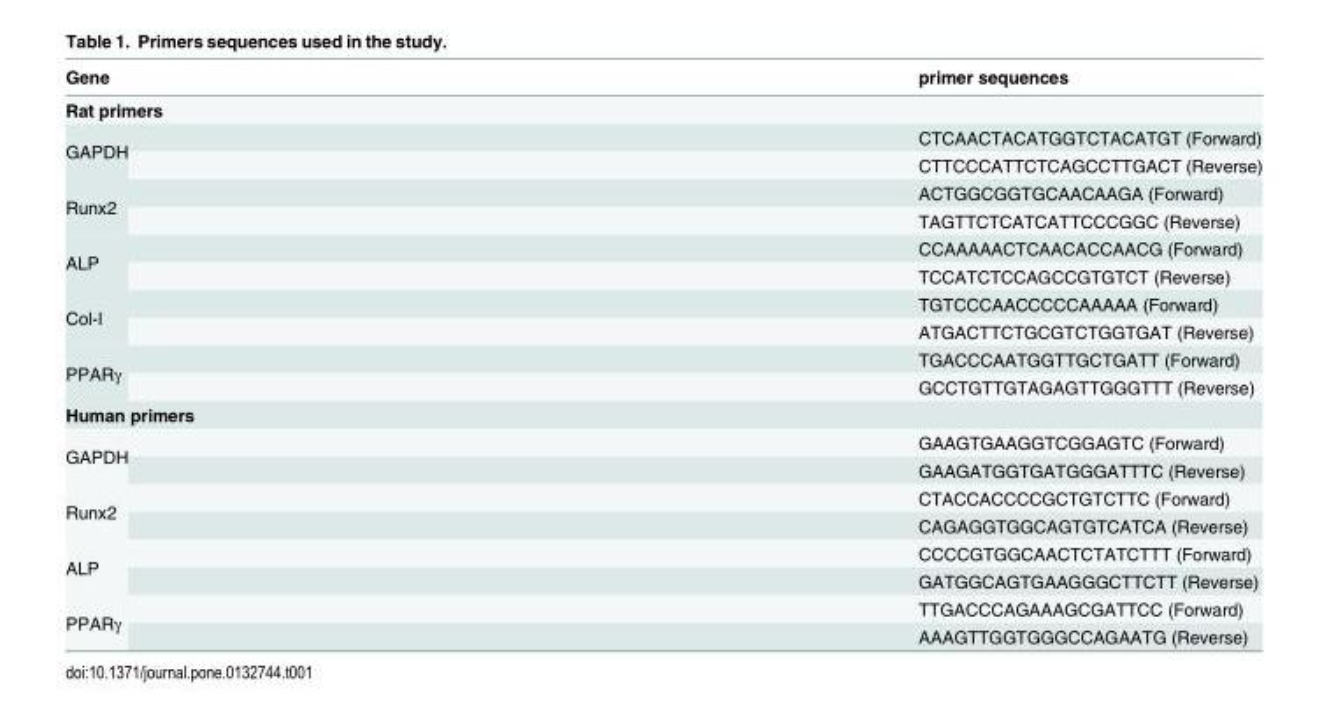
<table><thead><tr><td>Gene</td><td>primer sequences</td></tr></thead><tbody><tr><td colspan="2">Rat primers</td></tr><tr><td rowspan="2">GAPDH</td><td>CTCAACTACATGGTCTACATGT (Forward)</td></tr><tr><td>CTTCCCATTCTCAGCCTTGACT (Reverse)</td></tr><tr><td rowspan="2">Runx2</td><td>ACTGGCGGTGCAACAAGA (Forward)</td></tr><tr><td>TAGTTCTCATCATTCCCGGC (Reverse)</td></tr><tr><td rowspan="2">ALP</td><td>CCAAAAACTCAACACCAACG (Forward)</td></tr><tr><td>TCCATCTCCAGCCGTGTCT (Reverse)</td></tr><tr><td rowspan="2">Col-Ⅰ</td><td>TGTCCCAACCCCCAAAAA (Forward)</td></tr><tr><td>ATGACTTCTGCGTCTGGTGAT (Reverse)</td></tr><tr><td rowspan="2">PPARγ</td><td>TGACCCAATGGTTGCTGATT (Forward)</td></tr><tr><td>GCCTGTTGTAGAGTTGGGTTT (Reverse)</td></tr><tr><td colspan="2">Human primers</td></tr><tr><td rowspan="2">GAPDH</td><td>GAAGTGAAGGTCGGAGTC (Forward)</td></tr><tr><td>GAAGATGGTGATGGGATTTC (Reverse)</td></tr><tr><td rowspan="2">Runx2</td><td>CTACCACCCCGCTGTCTTC (Forward)</td></tr><tr><td>CAGAGGTGGCAGTGTCATCA (Reverse)</td></tr><tr><td rowspan="2">ALP</td><td>CCCCGTGGCAACTCTATCTTT (Forward)</td></tr><tr><td>GATGGCAGTGAAGGGCTTCTT (Reverse)</td></tr><tr><td rowspan="2">PPARγ</td><td>TTGACCCAGAAAGCGATTCC (Forward)</td></tr><tr><td>AAAGTTGGTGGGCCAGAATG (Reverse)</td></tr></tbody></table>